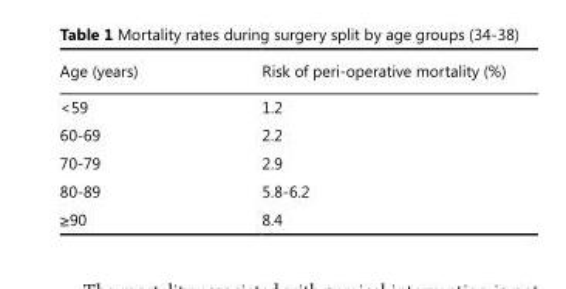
<table><thead><tr><td>Age (years)</td><td>Risk of peri-operative mortality (%)</td></tr></thead><tbody><tr><td>&lt;59</td><td>1.2</td></tr><tr><td>60-69</td><td>2.2</td></tr><tr><td>70-79</td><td>2.9</td></tr><tr><td>80-89</td><td>5.8-6.2</td></tr><tr><td>≥90</td><td>8.4</td></tr></tbody></table>